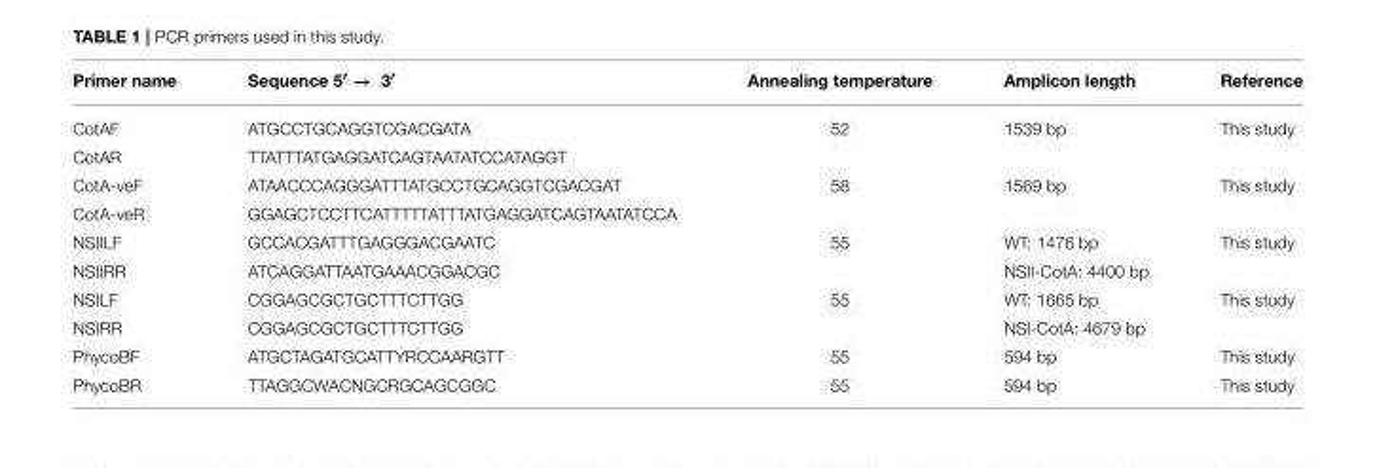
<table><thead><tr><td>Primer name</td><td>Sequence 5<sup>′</sup> → 3<sup>′</sup></td><td>Annealing temperature</td><td>Amplicon length</td><td>Reference</td></tr></thead><tbody><tr><td>CotAF</td><td>ATGCCTGCAGGTCGACGATA</td><td>52</td><td>1539 bp</td><td>This study</td></tr><tr><td>CotAR</td><td>TTATTTATGAGGATCAGTAATATCCATAGGT</td><td></td><td></td><td></td></tr><tr><td>CotA-veF</td><td>ATAACCCAGGGATTTATGCCTGCAGGTCGACGAT</td><td>58</td><td>1569 bp</td><td>This study</td></tr><tr><td>CotA-veR</td><td>GGAGCTCCTTCATTTTTATTTATGAGGATCAGTAATATCCA</td><td></td><td></td><td></td></tr><tr><td>NSIILF</td><td>GCCACGATTTGAGGGACGAATC</td><td>55</td><td>WT: 1476 bp</td><td>This study</td></tr><tr><td>NSIIRR</td><td>ATCAGGATTAATGAAACGGACGC</td><td></td><td>NSII-CotA: 4400 bp</td><td></td></tr><tr><td>NSILF</td><td>CGGAGCGCTGCTTTCTTGG</td><td>55</td><td>WT: 1665 bp</td><td>This study</td></tr><tr><td>NSIRR</td><td>CGGAGCGCTGCTTTCTTGG</td><td></td><td>NSI-CotA: 4679 bp</td><td></td></tr><tr><td>PhycoBF</td><td>ATGCTAGATGCATTYRCCAARGTT</td><td>55</td><td>594 bp</td><td>This study</td></tr><tr><td>PhycoBR</td><td>TTAGGCWACNGCRGCAGCGGC</td><td>55</td><td>594 bp</td><td>This study</td></tr></tbody></table>